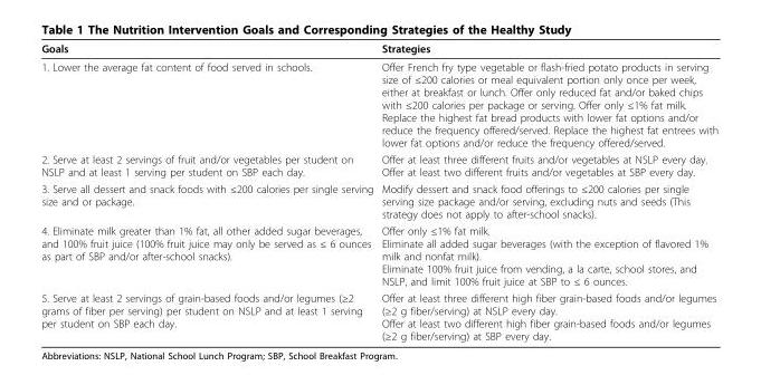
<table><thead><tr><td>Goals</td><td>Strategies</td></tr></thead><tbody><tr><td>1. Lower the average fat content of food served in schools.</td><td>Offer French fry type vegetable or flash-fried potato products in serving size of ≤200 calories or meal equivalent portion only once per week, either at breakfast or lunch. Offer only reduced fat and/or baked chips with ≤200 calories per package or serving. Offer only ≤1% fat milk. Replace the highest fat bread products with lower fat options and/or reduce the frequency offered/served. Replace the highest fat entrees with lower fat options and/or reduce the frequency offered/served.</td></tr><tr><td>2. Serve at least 2 servings of fruit and/or vegetables per student on NSLP and at least 1 serving per student on SBP each day.</td><td>Offer at least three different fruits and/or vegetables at NSLP every day. Offer at least two different fruits and/or vegetables at SBP every day.</td></tr><tr><td>3. Serve all dessert and snack foods with ≤200 calories per single serving size and or package.</td><td>Modify dessert and snack food offerings to ≤200 calories per single serving size package and/or serving, excluding nuts and seeds (This strategy does not apply to after-school snacks).</td></tr><tr><td>4. Eliminate milk greater than 1% fat, all other added sugar beverages, and 100% fruit juice (100% fruit juice may only be served as ≤ 6 ounces as part of SBP and/or after-school snacks).</td><td>Offer only ≤1% fat milk. Eliminate all added sugar beverages (with the exception of flavored 1% milk and nonfat milk). Eliminate 100% fruit juice from vending, a la carte, school stores, and NSLP, and limit 100% fruit juice at SBP to ≤ 6 ounces.</td></tr><tr><td>5. Serve at least 2 servings of grain-based foods and/or legumes (≥2 grams of fiber per serving) per student on NSLP and at least 1 serving per student on SBP each day.</td><td>Offer at least three different high fiber grain-based foods and/or legumes (≥2 g fiber/serving) at NSLP every day. Offer at least two different high fiber grain-based foods and/or legumes (≥2 g fiber/serving) at SBP every day.</td></tr></tbody></table>